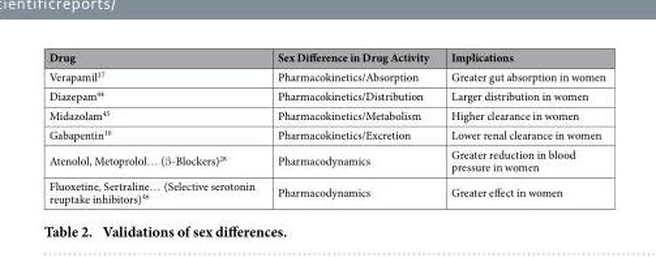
<table><thead><tr><td>Drug</td><td>Sex Difference in Drug Activity</td><td>Implications</td></tr></thead><tbody><tr><td>Verapamil<sup>27</sup></td><td>Pharmacokinetics/Absorption</td><td>Greater gut absorption in women</td></tr><tr><td>Diazepam<sup>44</sup></td><td>Pharmacokinetics/Distribution</td><td>Larger distribution in women</td></tr><tr><td>Midazolam<sup>45</sup></td><td>Pharmacokinetics/Metabolism</td><td>Higher clearance in women</td></tr><tr><td>Gabapentin<sup>10</sup></td><td>Pharmacokinetics/Excretion</td><td>Lower renal clearance in women</td></tr><tr><td>Atenolol, Metoprolol… (β -Blockers)<sup>28</sup></td><td>Pharmacodynamics</td><td>Greater reduction in blood pressure in women</td></tr><tr><td>Fluoxetine, Sertraline… (Selective serotonin reuptake inhibitors)<sup>46</sup></td><td>Pharmacodynamics</td><td>Greater effect in women</td></tr></tbody></table>